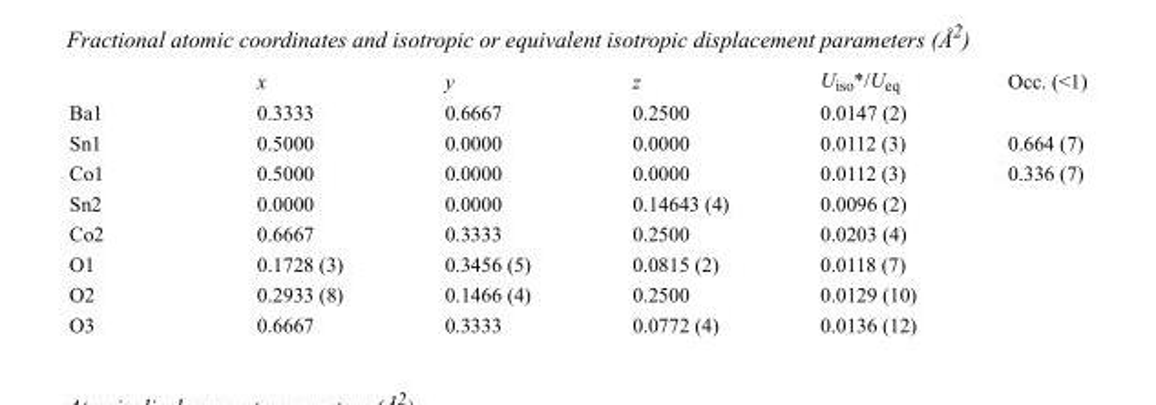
<table><thead><tr><td></td><td>x</td><td>y</td><td>z</td><td>U<sub>iso</sub>*/U<sub>eq</sub></td><td>Occ. (&lt;1)</td></tr></thead><tbody><tr><td>Ba1</td><td>0.3333</td><td>0.6667</td><td>0.2500</td><td>0.0147 (2)</td><td></td></tr><tr><td>Sn1</td><td>0.5000</td><td>0.0000</td><td>0.0000</td><td>0.0112 (3)</td><td>0.664 (7)</td></tr><tr><td>Co1</td><td>0.5000</td><td>0.0000</td><td>0.0000</td><td>0.0112 (3)</td><td>0.336 (7)</td></tr><tr><td>Sn2</td><td>0.0000</td><td>0.0000</td><td>0.14643 (4)</td><td>0.0096 (2)</td><td></td></tr><tr><td>Co2</td><td>0.6667</td><td>0.3333</td><td>0.2500</td><td>0.0203 (4)</td><td></td></tr><tr><td>O1</td><td>0.1728 (3)</td><td>0.3456 (5)</td><td>0.0815 (2)</td><td>0.0118 (7)</td><td></td></tr><tr><td>O2</td><td>0.2933 (8)</td><td>0.1466 (4)</td><td>0.2500</td><td>0.0129 (10)</td><td></td></tr><tr><td>O3</td><td>0.6667</td><td>0.3333</td><td>0.0772 (4)</td><td>0.0136 (12)</td><td></td></tr></tbody></table>